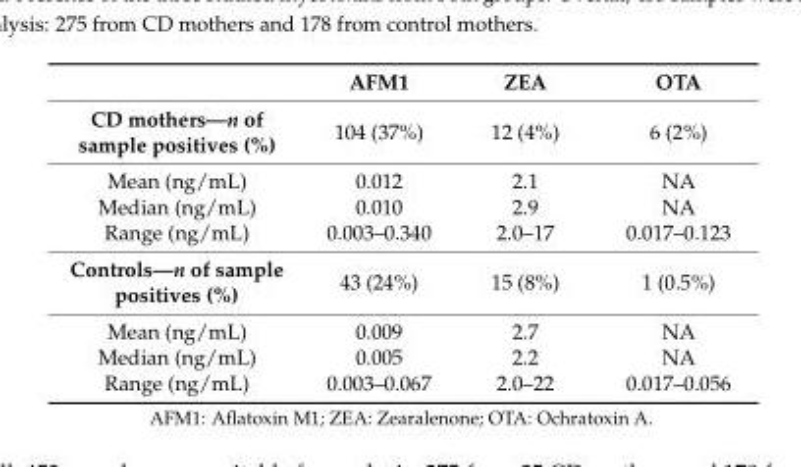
<table><thead><tr><td></td><td>AFM1</td><td>ZEA</td><td>OTA</td></tr></thead><tbody><tr><td>CD mothers—n of sample positives (%)</td><td>104 (37%)</td><td>12 (4%)</td><td>6 (2%)</td></tr><tr><td>Mean (ng/mL)</td><td>0.012</td><td>2.1</td><td>NA</td></tr><tr><td>Median (ng/mL)</td><td>0.010</td><td>2.9</td><td>NA</td></tr><tr><td>Range (ng/mL)</td><td>0.003–0.340</td><td>2.0–17</td><td>0.017–0.123</td></tr><tr><td>Controls—n of sample positives (%)</td><td>43 (24%)</td><td>15 (8%)</td><td>1 (0.5%)</td></tr><tr><td>Mean (ng/mL)</td><td>0.009</td><td>2.7</td><td>NA</td></tr><tr><td>Median (ng/mL)</td><td>0.005</td><td>2.2</td><td>NA</td></tr><tr><td>Range (ng/mL)</td><td>0.003–0.067</td><td>2.0–22</td><td>0.017–0.056</td></tr></tbody></table>